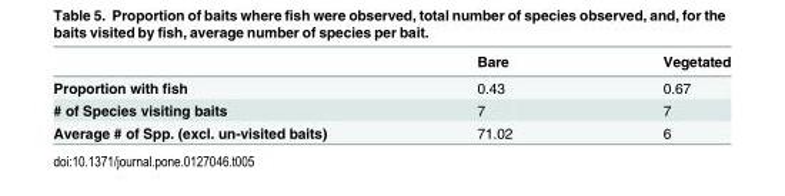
<table><thead><tr><td></td><td>Bare</td><td>Vegetated</td></tr></thead><tbody><tr><td>Proportion with fish</td><td>0.43</td><td>0.67</td></tr><tr><td># of Species visiting baits</td><td>7</td><td>7</td></tr><tr><td>Average # of Spp. (excl. un-visited baits)</td><td>71.02</td><td>6</td></tr></tbody></table>